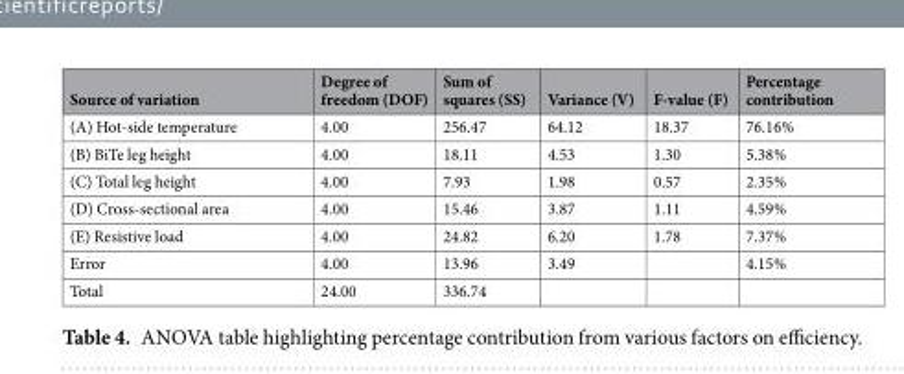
<table><thead><tr><td>Source of variation</td><td>Degree of freedom (DOF)</td><td>Sum of squares (SS)</td><td>Variance (V)</td><td>F-value (F)</td><td>Percentage contribution</td></tr></thead><tbody><tr><td>(A) Hot-side temperature</td><td>4.00</td><td>256.47</td><td>64.12</td><td>18.37</td><td>76.16%</td></tr><tr><td>(B) BiTe leg height</td><td>4.00</td><td>18.11</td><td>4.53</td><td>1.30</td><td>5.38%</td></tr><tr><td>(C) Total leg height</td><td>4.00</td><td>7.93</td><td>1.98</td><td>0.57</td><td>2.35%</td></tr><tr><td>(D) Cross-sectional area</td><td>4.00</td><td>15.46</td><td>3.87</td><td>1.11</td><td>4.59%</td></tr><tr><td>(E) Resistive load</td><td>4.00</td><td>24.82</td><td>6.20</td><td>1.78</td><td>7.37%</td></tr><tr><td>Error</td><td>4.00</td><td>13.96</td><td>3.49</td><td></td><td>4.15%</td></tr><tr><td>Total</td><td>24.00</td><td>336.74</td><td></td><td></td><td></td></tr></tbody></table>